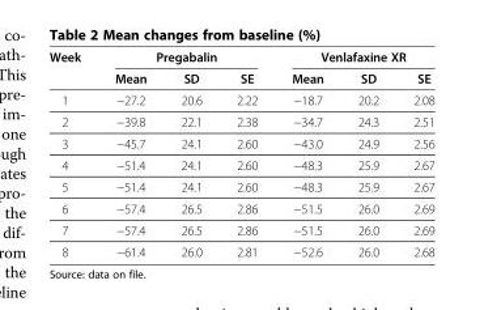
<table><thead><tr><td rowspan="2">Week</td><td colspan="3">Pregabalin</td><td colspan="3">Venlafaxine XR</td></tr><tr><td>Mean</td><td>SD</td><td>SE</td><td>Mean</td><td>SD</td><td>SE</td></tr></thead><tbody><tr><td>1</td><td>−27.2</td><td>20.6</td><td>2.22</td><td>−18.7</td><td>20.2</td><td>2.08</td></tr><tr><td>2</td><td>−39.8</td><td>22.1</td><td>2.38</td><td>−34.7</td><td>24.3</td><td>2.51</td></tr><tr><td>3</td><td>−45.7</td><td>24.1</td><td>2.60</td><td>−43.0</td><td>24.9</td><td>2.56</td></tr><tr><td>4</td><td>−51.4</td><td>24.1</td><td>2.60</td><td>−48.3</td><td>25.9</td><td>2.67</td></tr><tr><td>5</td><td>−51.4</td><td>24.1</td><td>2.60</td><td>−48.3</td><td>25.9</td><td>2.67</td></tr><tr><td>6</td><td>−57.4</td><td>26.5</td><td>2.86</td><td>−51.5</td><td>26.0</td><td>2.69</td></tr><tr><td>7</td><td>−57.4</td><td>26.5</td><td>2.86</td><td>−51.5</td><td>26.0</td><td>2.69</td></tr><tr><td>8</td><td>−61.4</td><td>26.0</td><td>2.81</td><td>−52.6</td><td>26.0</td><td>2.68</td></tr></tbody></table>